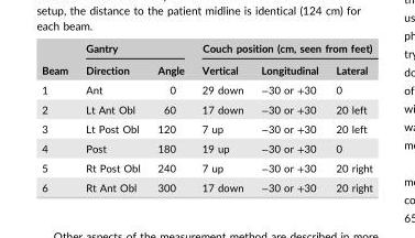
<table><thead><tr><td rowspan="2">Beam</td><td colspan="2">Gantry</td><td colspan="3">Couch position (cm, seen from feet)</td></tr><tr><td>Direction</td><td>Angle</td><td>Vertical</td><td>Longitudinal</td><td>Lateral</td></tr></thead><tbody><tr><td>1</td><td>Ant</td><td>0</td><td>29 down</td><td>−30 or +30</td><td>0</td></tr><tr><td>2</td><td>Lt Ant Obl</td><td>60</td><td>17 down</td><td>−30 or +30</td><td>20 left</td></tr><tr><td>3</td><td>Lt Post Obl</td><td>120</td><td>7 up</td><td>−30 or +30</td><td>20 left</td></tr><tr><td>4</td><td>Post</td><td>180</td><td>19 up</td><td>−30 or +30</td><td>0</td></tr><tr><td>5</td><td>Rt Post Obl</td><td>240</td><td>7 up</td><td>−30 or +30</td><td>20 right</td></tr><tr><td>6</td><td>Rt Ant Obl</td><td>300</td><td>17 down</td><td>−30 or +30</td><td>20 right</td></tr></tbody></table>